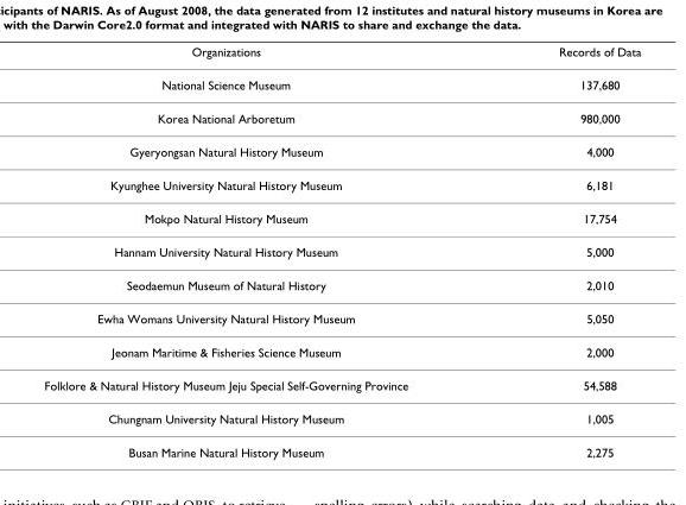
<table><thead><tr><td>Organizations</td><td>Records of Data</td></tr></thead><tbody><tr><td>National Science Museum</td><td>137,680</td></tr><tr><td>Korea National Arboretum</td><td>980,000</td></tr><tr><td>Gyeryongsan Natural History Museum</td><td>4,000</td></tr><tr><td>Kyunghee University Natural History Museum</td><td>6,181</td></tr><tr><td>Mokpo Natural History Museum</td><td>17,754</td></tr><tr><td>Hannam University Natural History Museum</td><td>5,000</td></tr><tr><td>Seodaemun Museum of Natural History</td><td>2,010</td></tr><tr><td>Ewha Womans University Natural History Museum</td><td>5,050</td></tr><tr><td>Jeonam Maritime &amp; Fisheries Science Museum</td><td>2,000</td></tr><tr><td>Folklore &amp; Natural History Museum Jeju Special Self-Governing Province</td><td>54,588</td></tr><tr><td>Chungnam University Natural History Museum</td><td>1,005</td></tr><tr><td>Busan Marine Natural History Museum</td><td>2,275</td></tr></tbody></table>